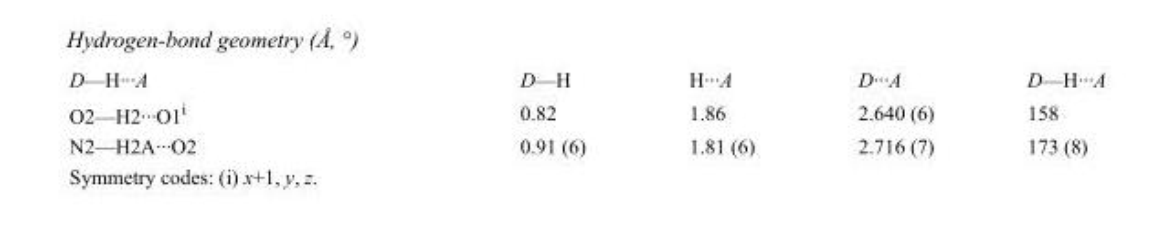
<table><tbody><tr><td>D—H···A</td><td>D—H</td><td>H···A</td><td>D···A</td><td>D—H···A</td></tr><tr><td>O2—H2···O1<sup>i</sup></td><td>0.82</td><td>1.86</td><td>2.640 (6)</td><td>158</td></tr><tr><td>N2—H2A···O2</td><td>0.91 (6)</td><td>1.81 (6)</td><td>2.716 (7)</td><td>173 (8)</td></tr></tbody></table>